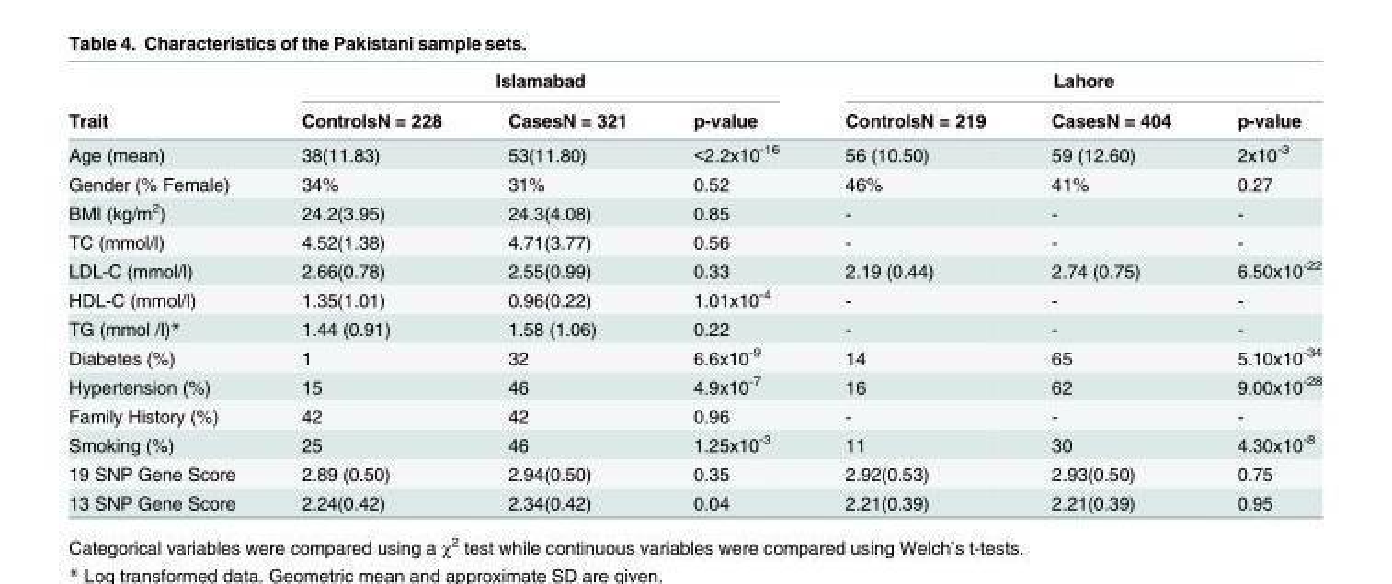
<table><thead><tr><td rowspan="2">Trait</td><td colspan="3">Islamabad</td><td colspan="3">Lahore</td></tr><tr><td>ControlsN = 228</td><td>CasesN = 321</td><td>p-value</td><td>ControlsN = 219</td><td>CasesN = 404</td><td>p-value</td></tr></thead><tbody><tr><td>Age (mean)</td><td>38(11.83)</td><td>53(11.80)</td><td>&lt;2.2x10<sup>-16</sup></td><td>56 (10.50)</td><td>59 (12.60)</td><td>2x10<sup>-3</sup></td></tr><tr><td>Gender (% Female)</td><td>34%</td><td>31%</td><td>0.52</td><td>46%</td><td>41%</td><td>0.27</td></tr><tr><td>BMI (kg/m<sup>2</sup>)</td><td>24.2(3.95)</td><td>24.3(4.08)</td><td>0.85</td><td>-</td><td>-</td><td>-</td></tr><tr><td>TC (mmol/l)</td><td>4.52(1.38)</td><td>4.71(3.77)</td><td>0.56</td><td>-</td><td>-</td><td>-</td></tr><tr><td>LDL-C (mmol/l)</td><td>2.66(0.78)</td><td>2.55(0.99)</td><td>0.33</td><td>2.19 (0.44)</td><td>2.74 (0.75)</td><td>6.50x10<sup>-22</sup></td></tr><tr><td>HDL-C (mmol/l)</td><td>1.35(1.01)</td><td>0.96(0.22)</td><td>1.01x10<sup>-4</sup></td><td>-</td><td>-</td><td>-</td></tr><tr><td>TG (mmol /l)*</td><td>1.44 (0.91)</td><td>1.58 (1.06)</td><td>0.22</td><td>-</td><td>-</td><td>-</td></tr><tr><td>Diabetes (%)</td><td>1</td><td>32</td><td>6.6x10<sup>-9</sup></td><td>14</td><td>65</td><td>5.10x10<sup>-34</sup></td></tr><tr><td>Hypertension (%)</td><td>15</td><td>46</td><td>4.9x10<sup>-7</sup></td><td>16</td><td>62</td><td>9.00x10<sup>-28</sup></td></tr><tr><td>Family History (%)</td><td>42</td><td>42</td><td>0.96</td><td>-</td><td>-</td><td>-</td></tr><tr><td>Smoking (%)</td><td>25</td><td>46</td><td>1.25x10<sup>-3</sup></td><td>11</td><td>30</td><td>4.30x10<sup>-8</sup></td></tr><tr><td>19 SNP Gene Score</td><td>2.89 (0.50)</td><td>2.94(0.50)</td><td>0.35</td><td>2.92(0.53)</td><td>2.93(0.50)</td><td>0.75</td></tr><tr><td>13 SNP Gene Score</td><td>2.24(0.42)</td><td>2.34(0.42)</td><td>0.04</td><td>2.21(0.39)</td><td>2.21(0.39)</td><td>0.95</td></tr></tbody></table>